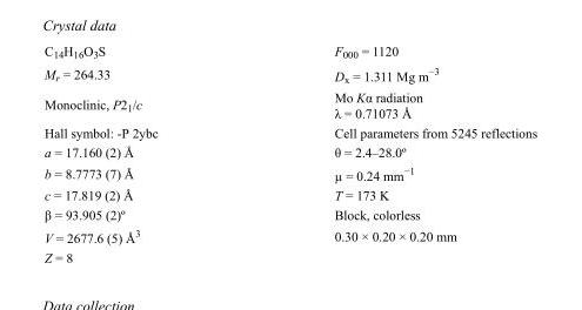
<table><tbody><tr><td>C<sub>14</sub>H<sub>16</sub>O<sub>3</sub>S</td><td>F000 = 1120</td></tr><tr><td>M<sub>r</sub> = 264.33</td><td>D<sub>x</sub> = 1.311 Mg m<sup>−3</sup></td></tr><tr><td>Monoclinic, P2<sub>1</sub>/c</td><td>Mo Kα radiation λ = 0.71073 Å</td></tr><tr><td>Hall symbol: -P 2ybc</td><td>Cell parameters from 5245 reflections</td></tr><tr><td>a = 17.160 (2) Å</td><td>θ = 2.4–28.0º</td></tr><tr><td>b = 8.7773 (7) Å</td><td>µ = 0.24 mm<sup>−1</sup></td></tr><tr><td>c = 17.819 (2) Å</td><td>T = 173 K</td></tr><tr><td>β = 93.905 (2)º</td><td>Block, colorless</td></tr><tr><td>V = 2677.6 (5) Å<sup>3</sup></td><td>0.30 × 0.20 × 0.20 mm</td></tr><tr><td>Z = 8</td><td></td></tr></tbody></table>